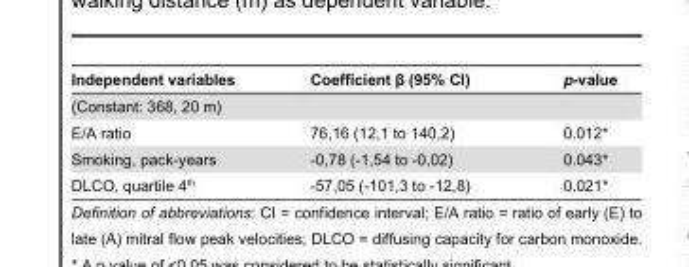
<table><thead><tr><td>Independent variables</td><td>Coefficient β (95% CI)</td><td>p-value</td></tr></thead><tbody><tr><td colspan="3">(Constant: 368, 20 m)</td></tr><tr><td>E/A ratio</td><td>76,16 (12,1 to 140,2)</td><td>0.012*</td></tr><tr><td>Smoking, pack-years</td><td>-0,78 (-1,54 to -0,02)</td><td>0.043*</td></tr><tr><td>DLCO, quartile 4<sup>th</sup></td><td>-57,05 (-101,3 to -12,8)</td><td>0.021*</td></tr></tbody></table>